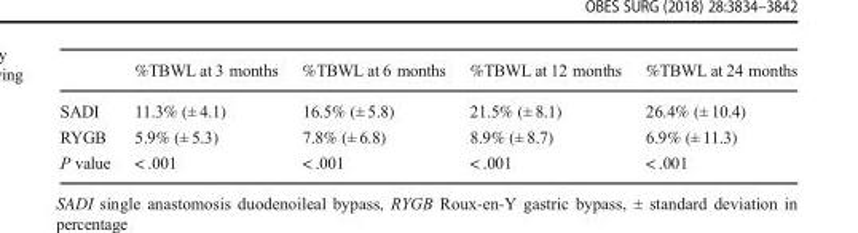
<table><thead><tr><td></td><td>%TBWL at 3 months</td><td>%TBWL at 6 months</td><td>%TBWL at 12 months</td><td>%TBWL at 24 months</td></tr></thead><tbody><tr><td>SADI</td><td>11.3% (± 4.1)</td><td>16.5% (± 5.8)</td><td>21.5% (± 8.1)</td><td>26.4% (± 10.4)</td></tr><tr><td>RYGB</td><td>5.9% (± 5.3)</td><td>7.8% (± 6.8)</td><td>8.9% (± 8.7)</td><td>6.9% (± 11.3)</td></tr><tr><td>P value</td><td>&lt; .001</td><td>&lt; .001</td><td>&lt; .001</td><td>&lt; .001</td></tr></tbody></table>